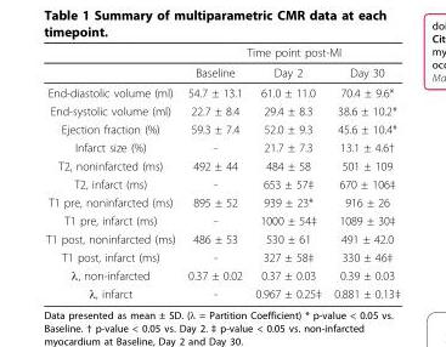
<table><thead><tr><td rowspan="2"></td><td colspan="3">Time point post-MI</td></tr><tr><td>Baseline</td><td>Day 2</td><td>Day 30</td></tr></thead><tbody><tr><td>End-diastolic volume (ml)</td><td>54.7 ± 13.1</td><td>61.0 ± 11.0</td><td>70.4 ± 9.6*</td></tr><tr><td>End-systolic volume (ml)</td><td>22.7 ± 8.4</td><td>29.4 ± 8.3</td><td>38.6 ± 10.2*</td></tr><tr><td>Ejection fraction (%)</td><td>59.3 ± 7.4</td><td>52.0 ± 9.3</td><td>45.6 ± 10.4*</td></tr><tr><td>Infarct size (%)</td><td>-</td><td>21.7 ± 7.3</td><td>13.1 ± 4.6†</td></tr><tr><td>T2, noninfarcted (ms)</td><td>492 ± 44</td><td>484 ± 58</td><td>501 ± 109</td></tr><tr><td>T2, infarct (ms)</td><td>-</td><td>653 ± 57‡</td><td>670 ± 106‡</td></tr><tr><td>T1 pre, noninfarcted (ms)</td><td>895 ± 52</td><td>939 ± 23*</td><td>916 ± 26</td></tr><tr><td>T1 pre, infarct (ms)</td><td>-</td><td>1000 ± 54‡</td><td>1089 ± 30‡</td></tr><tr><td>T1 post, noninfarcted (ms)</td><td>486 ± 53</td><td>530 ± 61</td><td>491 ± 42.0</td></tr><tr><td>T1 post, infarct (ms)</td><td>-</td><td>327 ± 58‡</td><td>330 ± 46‡</td></tr><tr><td>λ, non-infarcted</td><td>0.37 ± 0.02</td><td>0.37 ± 0.03</td><td>0.39 ± 0.03</td></tr><tr><td>λ, infarct</td><td>-</td><td>0.967 ± 0.25‡</td><td>0.881 ± 0.13‡</td></tr></tbody></table>